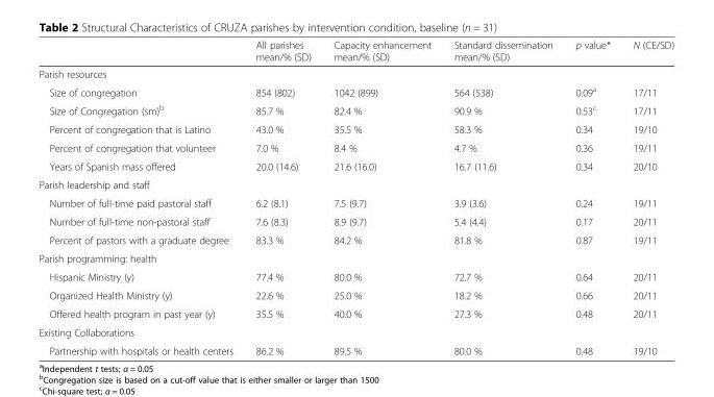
<table><thead><tr><td></td><td>All parishes mean/% (SD)</td><td>Capacity enhancement mean/% (SD)</td><td>Standard dissemination mean/% (SD)</td><td>p value*</td><td>N (CE/SD)</td></tr></thead><tbody><tr><td colspan="6">Parish resources</td></tr><tr><td>Size of congregation</td><td>854 (802)</td><td>1042 (899)</td><td>564 (538)</td><td>0.09<sup>a</sup></td><td>17/11</td></tr><tr><td>Size of Congregation (sm)<sup>b</sup></td><td>85.7 %</td><td>82.4 %</td><td>90.9 %</td><td>0.53<sup>c</sup></td><td>17/11</td></tr><tr><td>Percent of congregation that is Latino</td><td>43.0 %</td><td>35.5 %</td><td>58.3 %</td><td>0.34</td><td>19/10</td></tr><tr><td>Percent of congregation that volunteer</td><td>7.0 %</td><td>8.4 %</td><td>4.7 %</td><td>0.36</td><td>19/11</td></tr><tr><td>Years of Spanish mass offered</td><td>20.0 (14.6)</td><td>21.6 (16.0)</td><td>16.7 (11.6)</td><td>0.34</td><td>20/10</td></tr><tr><td colspan="6">Parish leadership and staff</td></tr><tr><td>Number of full-time paid pastoral staff</td><td>6.2 (8.1)</td><td>7.5 (9.7)</td><td>3.9 (3.6)</td><td>0.24</td><td>19/11</td></tr><tr><td>Number of full-time non-pastoral staff</td><td>7.6 (8.3)</td><td>8.9 (9.7)</td><td>5.4 (4.4)</td><td>0.17</td><td>20/11</td></tr><tr><td>Percent of pastors with a graduate degree</td><td>83.3 %</td><td>84.2 %</td><td>81.8 %</td><td>0.87</td><td>19/11</td></tr><tr><td colspan="6">Parish programming: health</td></tr><tr><td>Hispanic Ministry (y)</td><td>77.4 %</td><td>80.0 %</td><td>72.7 %</td><td>0.64</td><td>20/11</td></tr><tr><td>Organized Health Ministry (y)</td><td>22.6 %</td><td>25.0 %</td><td>18.2 %</td><td>0.66</td><td>20/11</td></tr><tr><td>Offered health program in past year (y)</td><td>35.5 %</td><td>40.0 %</td><td>27.3 %</td><td>0.48</td><td>20/11</td></tr><tr><td colspan="6">Existing Collaborations</td></tr><tr><td>Partnership with hospitals or health centers</td><td>86.2 %</td><td>89.5 %</td><td>80.0 %</td><td>0.48</td><td>19/10</td></tr></tbody></table>